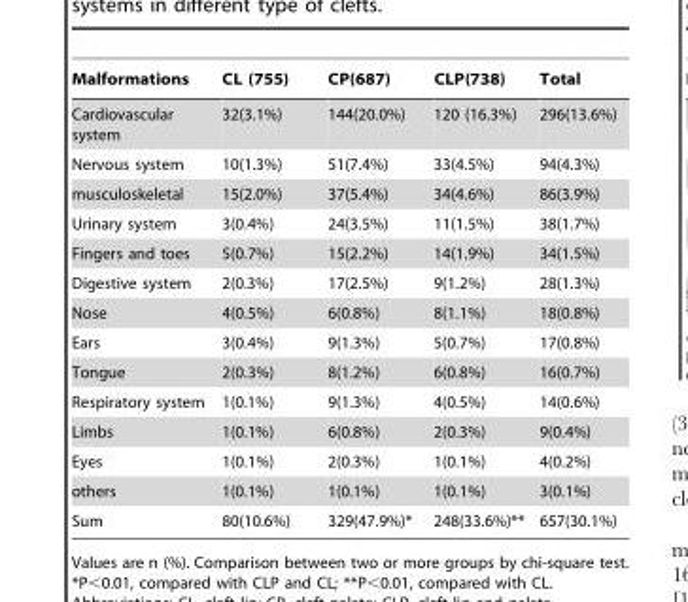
<table><thead><tr><td>Malformations</td><td>CL (755)</td><td>CP(687)</td><td>CLP(738)</td><td>Total</td></tr></thead><tbody><tr><td>Cardiovascular system</td><td>32(3.1%)</td><td>144(20.0%)</td><td>120 (16.3%)</td><td>296(13.6%)</td></tr><tr><td>Nervous system</td><td>10(1.3%)</td><td>51(7.4%)</td><td>33(4.5%)</td><td>94(4.3%)</td></tr><tr><td>musculoskeletal</td><td>15(2.0%)</td><td>37(5.4%)</td><td>34(4.6%)</td><td>86(3.9%)</td></tr><tr><td>Urinary system</td><td>3(0.4%)</td><td>24(3.5%)</td><td>11(1.5%)</td><td>38(1.7%)</td></tr><tr><td>Fingers and toes</td><td>5(0.7%)</td><td>15(2.2%)</td><td>14(1.9%)</td><td>34(1.5%)</td></tr><tr><td>Digestive system</td><td>2(0.3%)</td><td>17(2.5%)</td><td>9(1.2%)</td><td>28(1.3%)</td></tr><tr><td>Nose</td><td>4(0.5%)</td><td>6(0.8%)</td><td>8(1.1%)</td><td>18(0.8%)</td></tr><tr><td>Ears</td><td>3(0.4%)</td><td>9(1.3%)</td><td>5(0.7%)</td><td>17(0.8%)</td></tr><tr><td>Tongue</td><td>2(0.3%)</td><td>8(1.2%)</td><td>6(0.8%)</td><td>16(0.7%)</td></tr><tr><td>Respiratory system</td><td>1(0.1%)</td><td>9(1.3%)</td><td>4(0.5%)</td><td>14(0.6%)</td></tr><tr><td>Limbs</td><td>1(0.1%)</td><td>6(0.8%)</td><td>2(0.3%)</td><td>9(0.4%)</td></tr><tr><td>Eyes</td><td>1(0.1%)</td><td>2(0.3%)</td><td>1(0.1%)</td><td>4(0.2%)</td></tr><tr><td>others</td><td>1(0.1%)</td><td>1(0.1%)</td><td>1(0.1%)</td><td>3(0.1%)</td></tr><tr><td>Sum</td><td>80(10.6%)</td><td>329(47.9%)*</td><td>248(33.6%)**</td><td>657(30.1%)</td></tr></tbody></table>